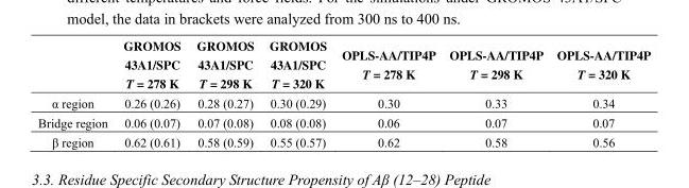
<table><thead><tr><td></td><td>GROMOS 43A1/SPC T = 278 K</td><td>GROMOS 43A1/SPC T = 298 K</td><td>GROMOS 43A1/SPC T = 320 K</td><td>OPLS-AA/TIP4P T = 278 K</td><td>OPLS-AA/TIP4P T = 298 K</td><td>OPLS-AA/TIP4P T = 320 K</td></tr></thead><tbody><tr><td>α region</td><td>0.26 (0.26)</td><td>0.28 (0.27)</td><td>0.30 (0.29)</td><td>0.30</td><td>0.33</td><td>0.34</td></tr><tr><td>Bridge region</td><td>0.06 (0.07)</td><td>0.07 (0.08)</td><td>0.08 (0.08)</td><td>0.06</td><td>0.07</td><td>0.07</td></tr><tr><td>β region</td><td>0.62 (0.61)</td><td>0.58 (0.59)</td><td>0.55 (0.57)</td><td>0.62</td><td>0.58</td><td>0.56</td></tr></tbody></table>